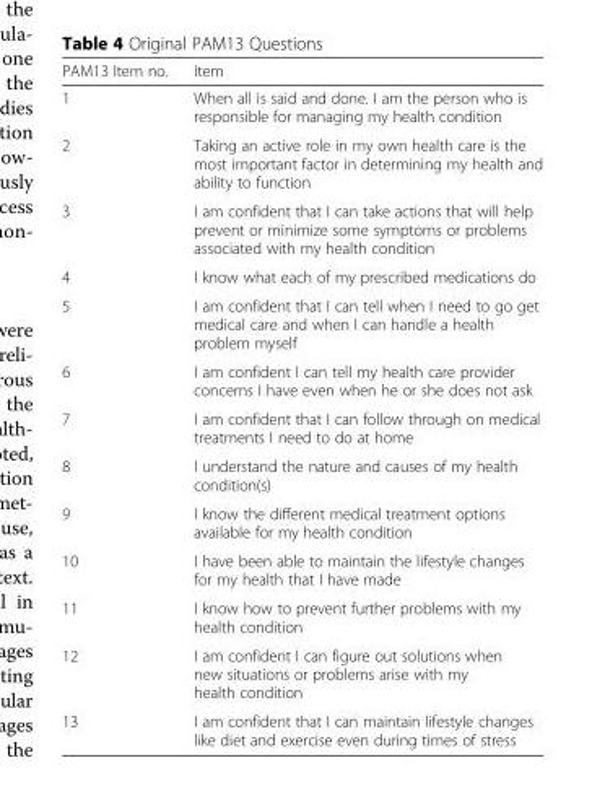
<table><thead><tr><td>PAM13 Item no.</td><td>Item</td></tr></thead><tbody><tr><td>1</td><td>When all is said and done. I am the person who is responsible for managing my health condition</td></tr><tr><td>2</td><td>Taking an active role in my own health care is the most important factor in determining my health and ability to function</td></tr><tr><td>3</td><td>I am confident that I can take actions that will help prevent or minimize some symptoms or problems associated with my health condition</td></tr><tr><td>4</td><td>I know what each of my prescribed medications do</td></tr><tr><td>5</td><td>I am confident that I can tell when I need to go get medical care and when I can handle a health problem myself</td></tr><tr><td>6</td><td>I am confident I can tell my health care provider concerns I have even when he or she does not ask</td></tr><tr><td>7</td><td>I am confident that I can follow through on medical treatments I need to do at home</td></tr><tr><td>8</td><td>I understand the nature and causes of my health condition(s)</td></tr><tr><td>9</td><td>I know the different medical treatment options available for my health condition</td></tr><tr><td>10</td><td>I have been able to maintain the lifestyle changes for my health that I have made</td></tr><tr><td>11</td><td>I know how to prevent further problems with my health condition</td></tr><tr><td>12</td><td>I am confident I can figure out solutions when new situations or problems arise with my health condition</td></tr><tr><td>13</td><td>I am confident that I can maintain lifestyle changes like diet and exercise even during times of stress</td></tr></tbody></table>